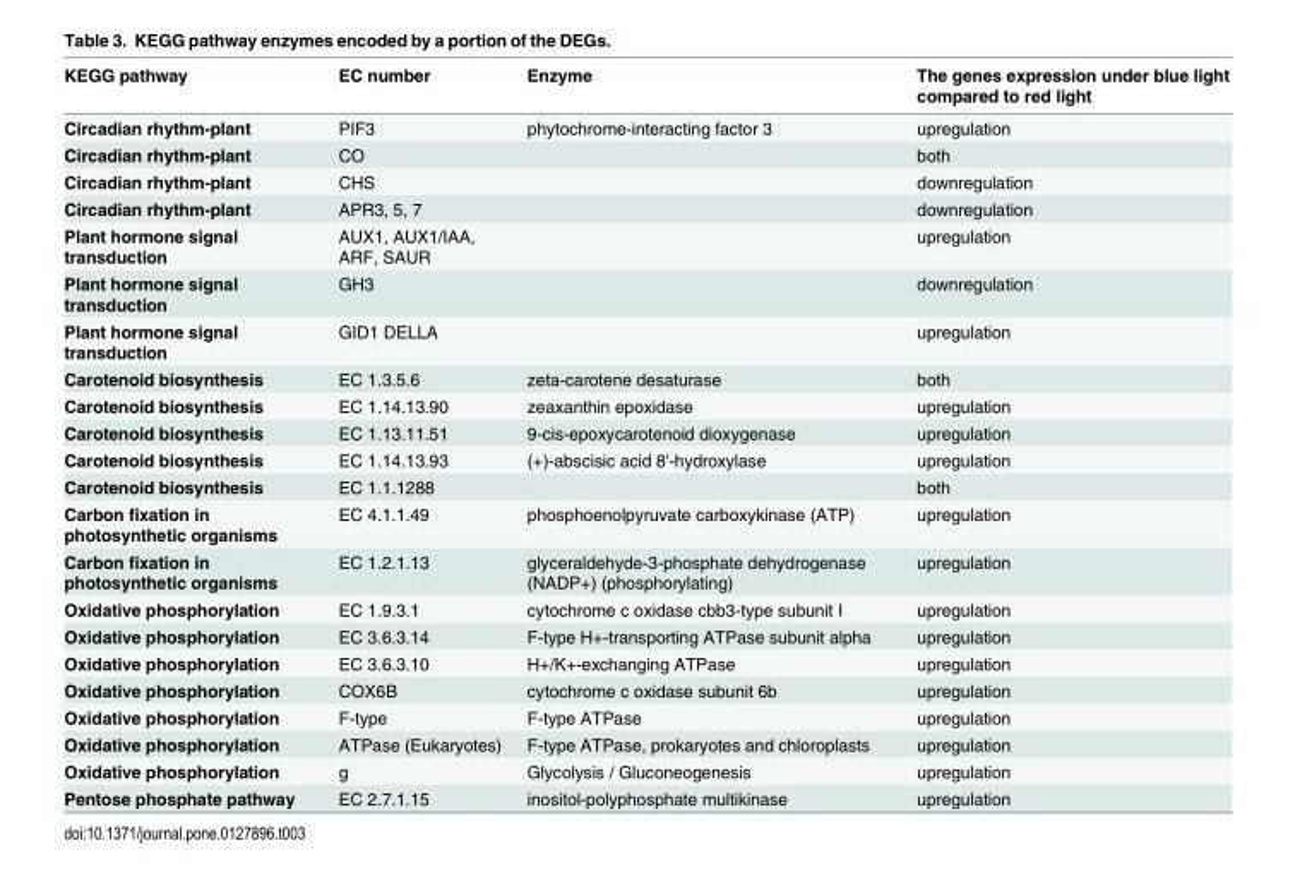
<table><thead><tr><td>KEGG pathway</td><td>EC number</td><td>Enzyme</td><td>The genes expression under blue light compared to red light</td></tr></thead><tbody><tr><td>Circadian rhythm-plant</td><td>PIF3</td><td>phytochrome-interacting factor 3</td><td>upregulation</td></tr><tr><td>Circadian rhythm-plant</td><td>CO</td><td></td><td>both</td></tr><tr><td>Circadian rhythm-plant</td><td>CHS</td><td></td><td>downregulation</td></tr><tr><td>Circadian rhythm-plant</td><td>APR3, 5, 7</td><td></td><td>downregulation</td></tr><tr><td>Plant hormone signal transduction</td><td>AUX1, AUX1/IAA, ARF, SAUR</td><td></td><td>upregulation</td></tr><tr><td>Plant hormone signal transduction</td><td>GH3</td><td></td><td>downregulation</td></tr><tr><td>Plant hormone signal transduction</td><td>GID1 DELLA</td><td></td><td>upregulation</td></tr><tr><td>Carotenoid biosynthesis</td><td>EC 1.3.5.6</td><td>zeta-carotene desaturase</td><td>both</td></tr><tr><td>Carotenoid biosynthesis</td><td>EC 1.14.13.90</td><td>zeaxanthin epoxidase</td><td>upregulation</td></tr><tr><td>Carotenoid biosynthesis</td><td>EC 1.13.11.51</td><td>9-cis-epoxycarotenoid dioxygenase</td><td>upregulation</td></tr><tr><td>Carotenoid biosynthesis</td><td>EC 1.14.13.93</td><td>(+)-abscisic acid 8&#x27;-hydroxylase</td><td>upregulation</td></tr><tr><td>Carotenoid biosynthesis</td><td>EC 1.1.1288</td><td></td><td>both</td></tr><tr><td>Carbon fixation in photosynthetic organisms</td><td>EC 4.1.1.49</td><td>phosphoenolpyruvate carboxykinase (ATP)</td><td>upregulation</td></tr><tr><td>Carbon fixation in photosynthetic organisms</td><td>EC 1.2.1.13</td><td>glyceraldehyde-3-phosphate dehydrogenase (NADP+) (phosphorylating)</td><td>upregulation</td></tr><tr><td>Oxidative phosphorylation</td><td>EC 1.9.3.1</td><td>cytochrome c oxidase cbb3-type subunit I</td><td>upregulation</td></tr><tr><td>Oxidative phosphorylation</td><td>EC 3.6.3.14</td><td>F-type H+-transporting ATPase subunit alpha</td><td>upregulation</td></tr><tr><td>Oxidative phosphorylation</td><td>EC 3.6.3.10</td><td>H+/K+-exchanging ATPase</td><td>upregulation</td></tr><tr><td>Oxidative phosphorylation</td><td>COX6B</td><td>cytochrome c oxidase subunit 6b</td><td>upregulation</td></tr><tr><td>Oxidative phosphorylation</td><td>F-type</td><td>F-type ATPase</td><td>upregulation</td></tr><tr><td>Oxidative phosphorylation</td><td>ATPase (Eukaryotes)</td><td>F-type ATPase, prokaryotes and chloroplasts</td><td>upregulation</td></tr><tr><td>Oxidative phosphorylation</td><td>g</td><td>Glycolysis / Gluconeogenesis</td><td>upregulation</td></tr><tr><td>Pentose phosphate pathway</td><td>EC 2.7.1.15</td><td>inositol-polyphosphate multikinase</td><td>upregulation</td></tr></tbody></table>